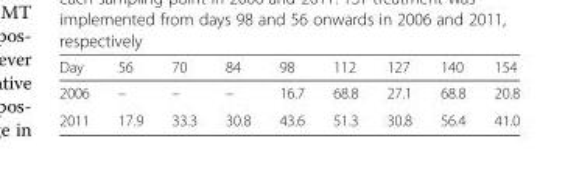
<table><thead><tr><td>Day</td><td>56</td><td>70</td><td>84</td><td>98</td><td>112</td><td>127</td><td>140</td><td>154</td></tr></thead><tbody><tr><td>2006</td><td>–</td><td>–</td><td>–</td><td>16.7</td><td>68.8</td><td>27.1</td><td>68.8</td><td>20.8</td></tr><tr><td>2011</td><td>17.9</td><td>33.3</td><td>30.8</td><td>43.6</td><td>51.3</td><td>30.8</td><td>56.4</td><td>41.0</td></tr></tbody></table>